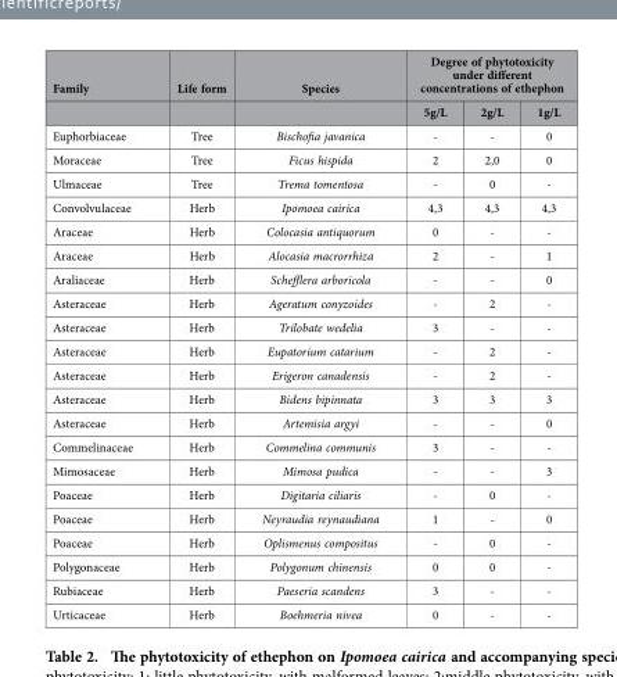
<table><thead><tr><td rowspan="2">Family</td><td rowspan="2">Life form</td><td rowspan="2">Species</td><td colspan="3">Degree of phytotoxicity under different concentrations of ethephon</td></tr><tr><td>5g/L</td><td>2g/L</td><td>1g/L</td></tr></thead><tbody><tr><td>Euphorbiaceae</td><td>Tree</td><td>Bischofia javanica</td><td>-</td><td>-</td><td>0</td></tr><tr><td>Moraceae</td><td>Tree</td><td>Ficus hispida</td><td>2</td><td>2,0</td><td>0</td></tr><tr><td>Ulmaceae</td><td>Tree</td><td>Trema tomentosa</td><td>-</td><td>0</td><td>-</td></tr><tr><td>Convolvulaceae</td><td>Herb</td><td>Ipomoea cairica</td><td>4,3</td><td>4,3</td><td>4,3</td></tr><tr><td>Araceae</td><td>Herb</td><td>Colocasia antiquorum</td><td>0</td><td>-</td><td>-</td></tr><tr><td>Araceae</td><td>Herb</td><td>Alocasia macrorrhiza</td><td>2</td><td>-</td><td>1</td></tr><tr><td>Araliaceae</td><td>Herb</td><td>Schefflera arboricola</td><td>-</td><td>-</td><td>0</td></tr><tr><td>Asteraceae</td><td>Herb</td><td>Ageratum conyzoides</td><td>-</td><td>2</td><td>-</td></tr><tr><td>Asteraceae</td><td>Herb</td><td>Trilobate wedelia</td><td>3</td><td>-</td><td>-</td></tr><tr><td>Asteraceae</td><td>Herb</td><td>Eupatorium catarium</td><td>-</td><td>2</td><td>-</td></tr><tr><td>Asteraceae</td><td>Herb</td><td>Erigeron canadensis</td><td>-</td><td>2</td><td>-</td></tr><tr><td>Asteraceae</td><td>Herb</td><td>Bidens bipinnata</td><td>3</td><td>3</td><td>3</td></tr><tr><td>Asteraceae</td><td>Herb</td><td>Artemisia argyi</td><td>-</td><td>-</td><td>0</td></tr><tr><td>Commelinaceae</td><td>Herb</td><td>Commelina communis</td><td>3</td><td>-</td><td>-</td></tr><tr><td>Mimosaceae</td><td>Herb</td><td>Mimosa pudica</td><td>-</td><td>-</td><td>3</td></tr><tr><td>Poaceae</td><td>Herb</td><td>Digitaria ciliaris</td><td>-</td><td>0</td><td>-</td></tr><tr><td>Poaceae</td><td>Herb</td><td>Neyraudia reynaudiana</td><td>1</td><td>-</td><td>0</td></tr><tr><td>Poaceae</td><td>Herb</td><td>Oplismenus compositus</td><td>-</td><td>0</td><td>-</td></tr><tr><td>Polygonaceae</td><td>Herb</td><td>Polygonum chinensis</td><td>0</td><td>0</td><td>-</td></tr><tr><td>Rubiaceae</td><td>Herb</td><td>Paeseria scandens</td><td>3</td><td>-</td><td>-</td></tr><tr><td>Urticaceae</td><td>Herb</td><td>Boehmeria nivea</td><td>0</td><td>-</td><td>-</td></tr></tbody></table>